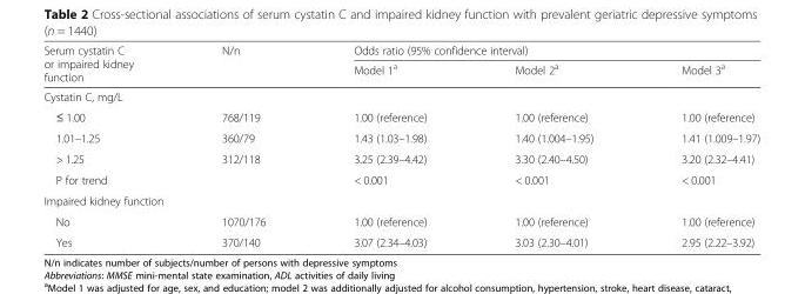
<table><thead><tr><td rowspan="2">Serum cystatin C or impaired kidney function</td><td rowspan="2">N/n</td><td colspan="3">Odds ratio (95% confidence interval)</td></tr><tr><td>Model 1<sup>a</sup></td><td>Model 2<sup>a</sup></td><td>Model 3<sup>a</sup></td></tr></thead><tbody><tr><td colspan="5">Cystatin C, mg/L</td></tr><tr><td>≤ 1.00</td><td>768/119</td><td>1.00 (reference)</td><td>1.00 (reference)</td><td>1.00 (reference)</td></tr><tr><td>1.01–1.25</td><td>360/79</td><td>1.43 (1.03–1.98)</td><td>1.40 (1.004–1.95)</td><td>1.41 (1.009–1.97)</td></tr><tr><td>&gt; 1.25</td><td>312/118</td><td>3.25 (2.39–4.42)</td><td>3.30 (2.40–4.50)</td><td>3.20 (2.32–4.41)</td></tr><tr><td>P for trend</td><td></td><td>&lt; 0.001</td><td>&lt; 0.001</td><td>&lt; 0.001</td></tr><tr><td colspan="5">Impaired kidney function</td></tr><tr><td>No</td><td>1070/176</td><td>1.00 (reference)</td><td>1.00 (reference)</td><td>1.00 (reference)</td></tr><tr><td>Yes</td><td>370/140</td><td>3.07 (2.34–4.03)</td><td>3.03 (2.30–4.01)</td><td>2.95 (2.22–3.92)</td></tr></tbody></table>